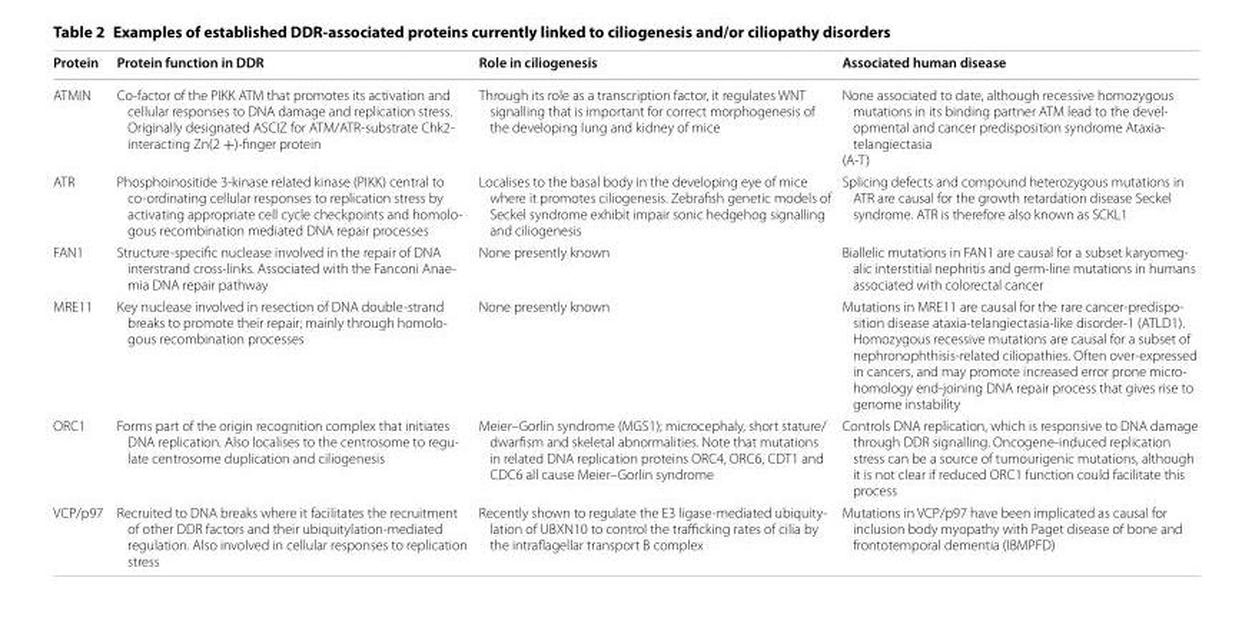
<table><thead><tr><td>Protein</td><td>Protein function in DDR</td><td>Role in ciliogenesis</td><td>Associated human disease</td></tr></thead><tbody><tr><td>ATMIN</td><td>Co-factor of the PIKK ATM that promotes its activation and cellular responses to DNA damage and replication stress. Originally designated ASCIZ for ATM/ATR-substrate Chk2- interacting Zn(2 +)-finger protein</td><td>Through its role as a transcription factor, it regulates WNT signalling that is important for correct morphogenesis of the developing lung and kidney of mice</td><td>None associated to date, although recessive homozygous mutations in its binding partner ATM lead to the devel- opmental and cancer predisposition syndrome Ataxia- telangiectasia (A-T)</td></tr><tr><td>ATR</td><td>Phosphoinositide 3-kinase related kinase (PIKK) central to co-ordinating cellular responses to replication stress by activating appropriate cell cycle checkpoints and homolo- gous recombination mediated DNA repair processes</td><td>Localises to the basal body in the developing eye of mice where it promotes ciliogenesis. Zebrafish genetic models of Seckel syndrome exhibit impair sonic hedgehog signalling and ciliogenesis</td><td>Splicing defects and compound heterozygous mutations in ATR are causal for the growth retardation disease Seckel syndrome. ATR is therefore also known as SCKL1</td></tr><tr><td>FAN1</td><td>Structure-specific nuclease involved in the repair of DNA interstrand cross-links. Associated with the Fanconi Anae- mia DNA repair pathway</td><td>None presently known</td><td>Biallelic mutations in FAN1 are causal for a subset karyomeg- alic interstitial nephritis and germ-line mutations in humans associated with colorectal cancer</td></tr><tr><td>MRE11</td><td>Key nuclease involved in resection of DNA double-strand breaks to promote their repair; mainly through homolo- gous recombination processes</td><td>None presently known</td><td>Mutations in MRE11 are causal for the rare cancer-predispo- sition disease ataxia-telangiectasia-like disorder-1 (ATLD1). Homozygous recessive mutations are causal for a subset of nephronophthisis-related ciliopathies. Often over-expressed in cancers, and may promote increased error prone micro- homology end-joining DNA repair process that gives rise to genome instability</td></tr><tr><td>ORC1</td><td>Forms part of the origin recognition complex that initiates DNA replication. Also localises to the centrosome to regu- late centrosome duplication and ciliogenesis</td><td>Meier–Gorlin syndrome (MGS1); microcephaly, short stature/ dwarfism and skeletal abnormalities. Note that mutations in related DNA replication proteins ORC4, ORC6, CDT1 and CDC6 all cause Meier–Gorlin syndrome</td><td>Controls DNA replication, which is responsive to DNA damage through DDR signalling. Oncogene-induced replication stress can be a source of tumourigenic mutations, although it is not clear if reduced ORC1 function could facilitate this process</td></tr><tr><td>VCP/p97</td><td>Recruited to DNA breaks where it facilitates the recruitment of other DDR factors and their ubiquitylation-mediated regulation. Also involved in cellular responses to replication stress</td><td>Recently shown to regulate the E3 ligase-mediated ubiquity- lation of UBXN10 to control the trafficking rates of cilia by the intraflagellar transport B complex</td><td>Mutations in VCP/p97 have been implicated as causal for inclusion body myopathy with Paget disease of bone and frontotemporal dementia (IBMPFD)</td></tr></tbody></table>